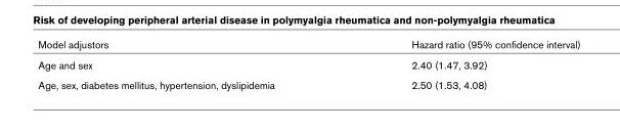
<table><thead><tr><td>Model adjustors</td><td>Hazard ratio (95% confidence interval)</td></tr></thead><tbody><tr><td>Age and sex</td><td>2.40 (1.47, 3.92)</td></tr><tr><td>Age, sex, diabetes mellitus, hypertension, dyslipidemia</td><td>2.50 (1.53, 4.08)</td></tr></tbody></table>